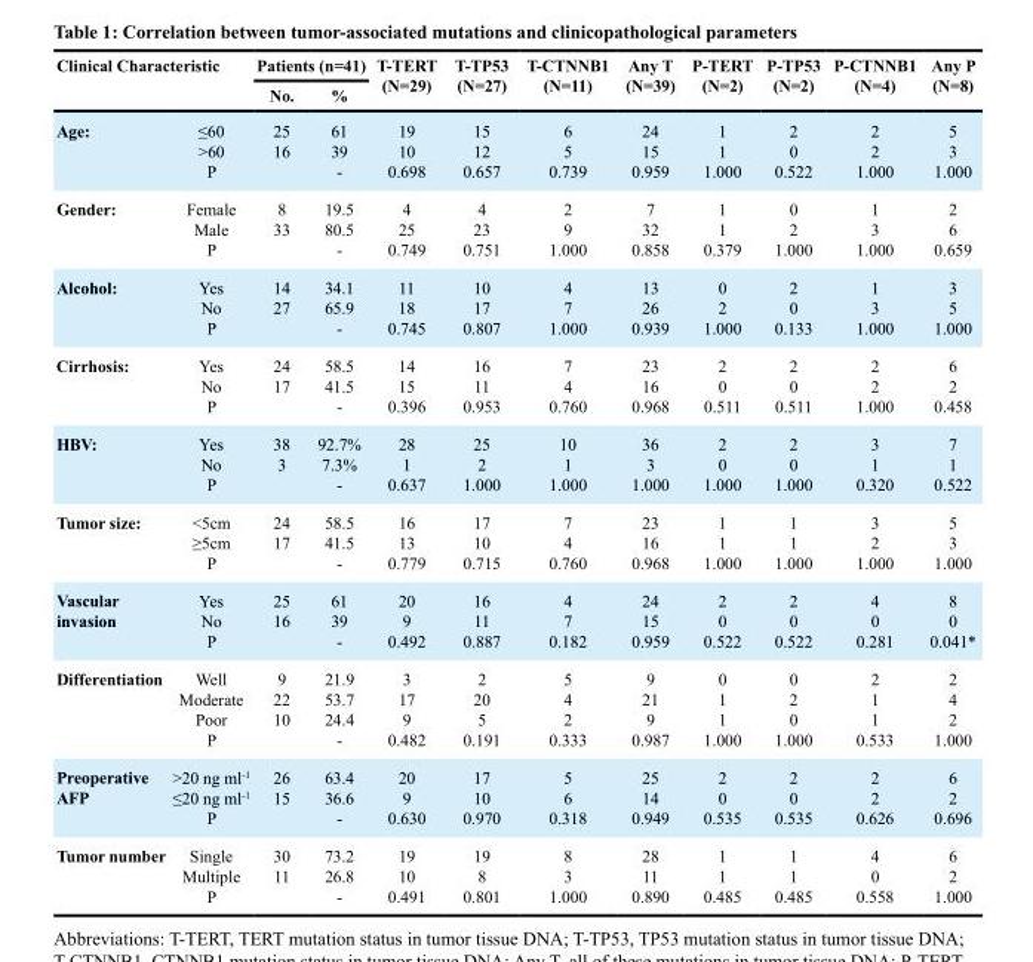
<table><thead><tr><td rowspan="2" colspan="2">Clinical Characteristic</td><td colspan="2">Patients (n=41)</td><td rowspan="3">T-TERT (N=29) 19 10 0.698</td><td rowspan="3">T-TP53 (N=27) 15 12 0.657</td><td rowspan="3">T-CTNNB1 (N=11) 6 5 0.739</td><td rowspan="3">Any T (N=39) 24 15 0.959</td><td rowspan="3">P-TERT (N=2) 1 1 1.000</td><td rowspan="3">P-TP53 (N=2) 2 0 0.522</td><td rowspan="3">P-CTNNB1 (N=4) 2 2 1.000</td><td rowspan="3">Any P (N=8) 5 3 1.000</td></tr><tr><td rowspan="2">No. 25 16</td><td rowspan="2">% 61 39 -</td></tr><tr><td>Age:</td><td>≤60 &gt;60 P</td></tr></thead><tbody><tr><td>Gender:</td><td>Female Male P</td><td>8 33</td><td>19.5 80.5 -</td><td>4 25 0.749</td><td>4 23 0.751</td><td>2 9 1.000</td><td>7 32 0.858</td><td>1 1 0.379</td><td>0 2 1.000</td><td>1 3 1.000</td><td>2 6 0.659</td></tr><tr><td>Alcohol:</td><td>Yes No P</td><td>14 27</td><td>34.1 65.9 -</td><td>11 18 0.745</td><td>10 17 0.807</td><td>4 7 1.000</td><td>13 26 0.939</td><td>0 2 1.000</td><td>2 0 0.133</td><td>1 3 1.000</td><td>3 5 1.000</td></tr><tr><td>Cirrhosis:</td><td>Yes No P</td><td>24 17</td><td>58.5 41.5 -</td><td>14 15 0.396</td><td>16 11 0.953</td><td>7 4 0.760</td><td>23 16 0.968</td><td>2 0 0.511</td><td>2 0 0.511</td><td>2 2 1.000</td><td>6 2 0.458</td></tr><tr><td>HBV:</td><td>Yes No P</td><td>38 3</td><td>92.7% 7.3% -</td><td>28 1 0.637</td><td>25 2 1.000</td><td>10 1 1.000</td><td>36 3 1.000</td><td>2 0 1.000</td><td>2 0 1.000</td><td>3 1 0.320</td><td>7 1 0.522</td></tr><tr><td>Tumor size:</td><td>&lt;5cm ≥5cm P</td><td>24 17</td><td>58.5 41.5 -</td><td>16 13 0.779</td><td>17 10 0.715</td><td>7 4 0.760</td><td>23 16 0.968</td><td>1 1 1.000</td><td>1 1 1.000</td><td>3 2 1.000</td><td>5 3 1.000</td></tr><tr><td>Vascular invasion</td><td>Yes No P</td><td>25 16</td><td>61 39 -</td><td>20 9 0.492</td><td>16 11 0.887</td><td>4 7 0.182</td><td>24 15 0.959</td><td>2 0 0.522</td><td>2 0 0.522</td><td>4 0 0.281</td><td>8 0 0.041*</td></tr><tr><td>Differentiation</td><td>Well Moderate Poor P</td><td>9 22 10</td><td>21.9 53.7 24.4 -</td><td>3 17 9 0.482</td><td>2 20 5 0.191</td><td>5 4 2 0.333</td><td>9 21 9 0.987</td><td>0 1 1 1.000</td><td>0 2 0 1.000</td><td>2 1 1 0.533</td><td>2 4 2 1.000</td></tr><tr><td>Preoperative AFP</td><td>&gt;20 ng ml<sup>-1</sup> ≤20 ng ml<sup>-1</sup> P</td><td>26 15</td><td>63.4 36.6 -</td><td>20 9 0.630</td><td>17 10 0.970</td><td>5 6 0.318</td><td>25 14 0.949</td><td>2 0 0.535</td><td>2 0 0.535</td><td>2 2 0.626</td><td>6 2 0.696</td></tr><tr><td>Tumor number</td><td>Single Multiple P</td><td>30 11</td><td>73.2 26.8 -</td><td>19 10 0.491</td><td>19 8 0.801</td><td>8 3 1.000</td><td>28 11 0.890</td><td>1 1 0.485</td><td>1 1 0.485</td><td>4 0 0.558</td><td>6 2 1.000</td></tr></tbody></table>